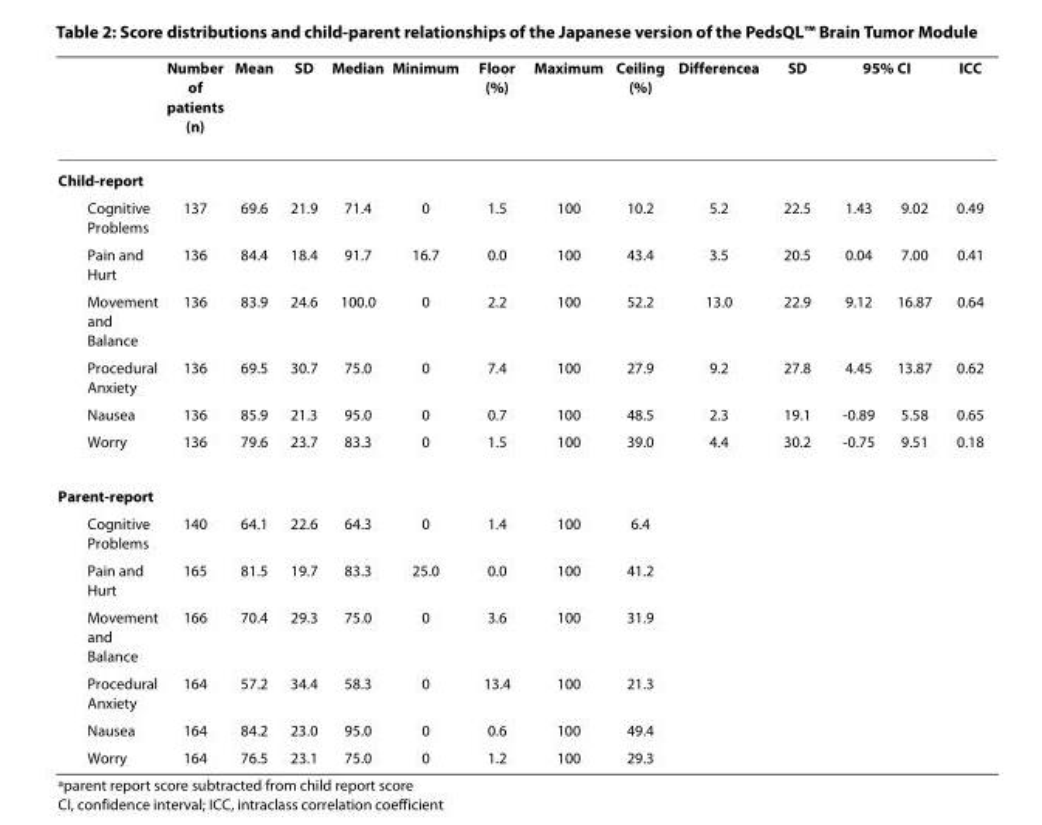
<table><thead><tr><td rowspan="2">Child-report</td><td rowspan="2">Number of patients (n)</td><td rowspan="2">Mean</td><td rowspan="2">SD</td><td rowspan="2">Median</td><td rowspan="2">Minimum</td><td rowspan="2">Floor (%)</td><td rowspan="2">Maximum</td><td rowspan="2">Ceiling (%)</td><td rowspan="2">Difference<sup>a</sup></td><td rowspan="2">SD</td><td colspan="2">95% CI</td><td rowspan="2">ICC</td></tr><tr><td></td><td></td></tr></thead><tbody><tr><td>Cognitive Problems</td><td>137</td><td>69.6</td><td>21.9</td><td>71.4</td><td>0</td><td>1.5</td><td>100</td><td>10.2</td><td>5.2</td><td>22.5</td><td>1.43</td><td>9.02</td><td>0.49</td></tr><tr><td>Pain and Hurt</td><td>136</td><td>84.4</td><td>18.4</td><td>91.7</td><td>16.7</td><td>0.0</td><td>100</td><td>43.4</td><td>3.5</td><td>20.5</td><td>0.04</td><td>7.00</td><td>0.41</td></tr><tr><td>Movement and Balance</td><td>136</td><td>83.9</td><td>24.6</td><td>100.0</td><td>0</td><td>2.2</td><td>100</td><td>52.2</td><td>13.0</td><td>22.9</td><td>9.12</td><td>16.87</td><td>0.64</td></tr><tr><td>Procedural Anxiety</td><td>136</td><td>69.5</td><td>30.7</td><td>75.0</td><td>0</td><td>7.4</td><td>100</td><td>27.9</td><td>9.2</td><td>27.8</td><td>4.45</td><td>13.87</td><td>0.62</td></tr><tr><td>Nausea</td><td>136</td><td>85.9</td><td>21.3</td><td>95.0</td><td>0</td><td>0.7</td><td>100</td><td>48.5</td><td>2.3</td><td>19.1</td><td>-0.89</td><td>5.58</td><td>0.65</td></tr><tr><td>Worry</td><td>136</td><td>79.6</td><td>23.7</td><td>83.3</td><td>0</td><td>1.5</td><td>100</td><td>39.0</td><td>4.4</td><td>30.2</td><td>-0.75</td><td>9.51</td><td>0.18</td></tr><tr><td colspan="14">Parent-report</td></tr><tr><td>Cognitive Problems</td><td>140</td><td>64.1</td><td>22.6</td><td>64.3</td><td>0</td><td>1.4</td><td>100</td><td>6.4</td><td></td><td></td><td></td><td></td><td></td></tr><tr><td>Pain and Hurt</td><td>165</td><td>81.5</td><td>19.7</td><td>83.3</td><td>25.0</td><td>0.0</td><td>100</td><td>41.2</td><td></td><td></td><td></td><td></td><td></td></tr><tr><td>Movement and Balance</td><td>166</td><td>70.4</td><td>29.3</td><td>75.0</td><td>0</td><td>3.6</td><td>100</td><td>31.9</td><td></td><td></td><td></td><td></td><td></td></tr><tr><td>Procedural Anxiety</td><td>164</td><td>57.2</td><td>34.4</td><td>58.3</td><td>0</td><td>13.4</td><td>100</td><td>21.3</td><td></td><td></td><td></td><td></td><td></td></tr><tr><td>Nausea</td><td>164</td><td>84.2</td><td>23.0</td><td>95.0</td><td>0</td><td>0.6</td><td>100</td><td>49.4</td><td></td><td></td><td></td><td></td><td></td></tr><tr><td>Worry</td><td>164</td><td>76.5</td><td>23.1</td><td>75.0</td><td>0</td><td>1.2</td><td>100</td><td>29.3</td><td></td><td></td><td></td><td></td><td></td></tr></tbody></table>